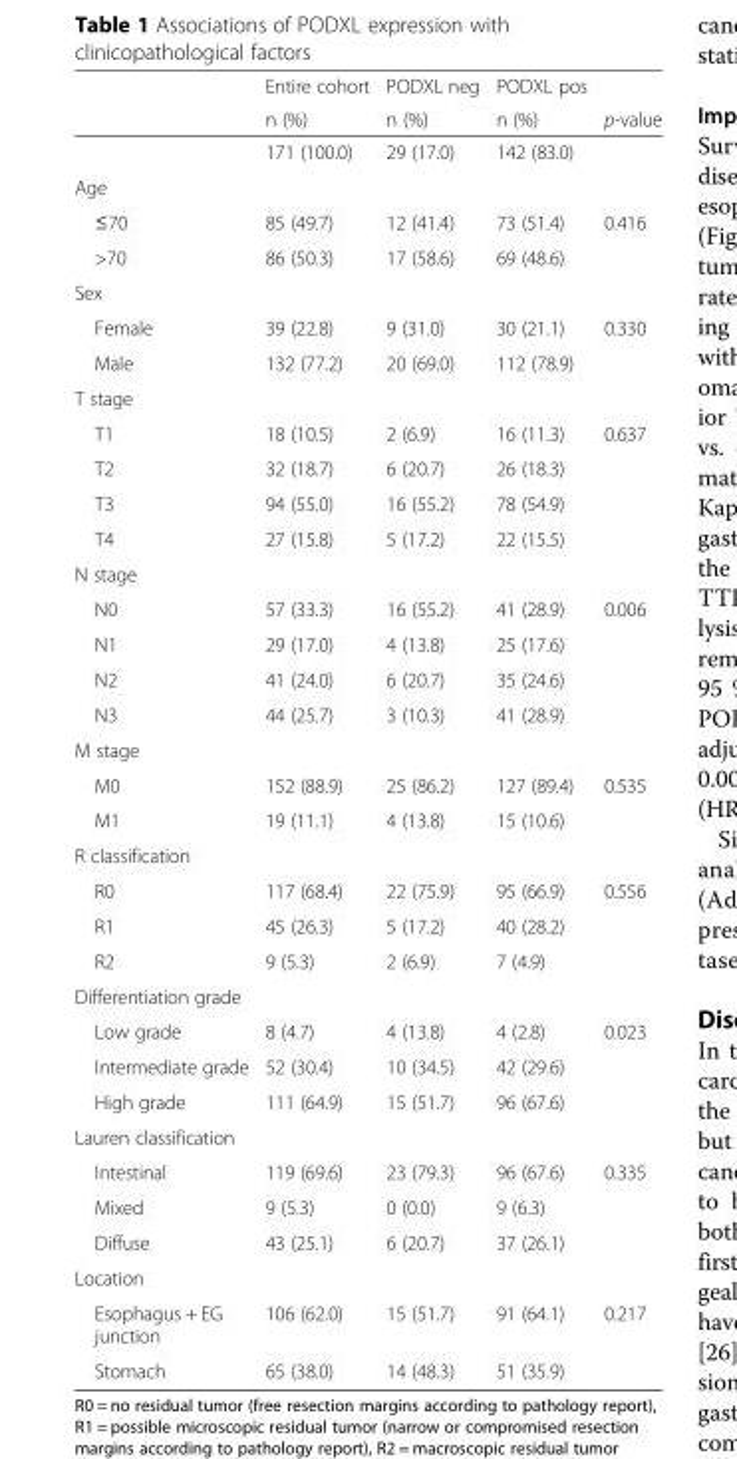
<table><thead><tr><td rowspan="2"></td><td rowspan="2">Entire cohort n (%)</td><td rowspan="2">PODXL neg n (%)</td><td rowspan="2">PODXL pos n (%)</td><td rowspan="2">p-value</td></tr><tr></tr></thead><tbody><tr><td></td><td>171 (100.0)</td><td>29 (17.0)</td><td>142 (83.0)</td><td></td></tr><tr><td colspan="5">Age</td></tr><tr><td>≤70</td><td>85 (49.7)</td><td>12 (41.4)</td><td>73 (51.4)</td><td rowspan="2">0.416</td></tr><tr><td>&gt;70</td><td>86 (50.3)</td><td>17 (58.6)</td><td>69 (48.6)</td></tr><tr><td colspan="5">Sex</td></tr><tr><td>Female</td><td>39 (22.8)</td><td>9 (31.0)</td><td>30 (21.1)</td><td rowspan="2">0.330</td></tr><tr><td>Male</td><td>132 (77.2)</td><td>20 (69.0)</td><td>112 (78.9)</td></tr><tr><td colspan="5">T stage</td></tr><tr><td>T1</td><td>18 (10.5)</td><td>2 (6.9)</td><td>16 (11.3)</td><td rowspan="4">0.637</td></tr><tr><td>T2</td><td>32 (18.7)</td><td>6 (20.7)</td><td>26 (18.3)</td></tr><tr><td>T3</td><td>94 (55.0)</td><td>16 (55.2)</td><td>78 (54.9)</td></tr><tr><td>T4</td><td>27 (15.8)</td><td>5 (17.2)</td><td>22 (15.5)</td></tr><tr><td colspan="5">N stage</td></tr><tr><td>N0</td><td>57 (33.3)</td><td>16 (55.2)</td><td>41 (28.9)</td><td rowspan="4">0.006</td></tr><tr><td>N1</td><td>29 (17.0)</td><td>4 (13.8)</td><td>25 (17.6)</td></tr><tr><td>N2</td><td>41 (24.0)</td><td>6 (20.7)</td><td>35 (24.6)</td></tr><tr><td>N3</td><td>44 (25.7)</td><td>3 (10.3)</td><td>41 (28.9)</td></tr><tr><td colspan="5">M stage</td></tr><tr><td>M0</td><td>152 (88.9)</td><td>25 (86.2)</td><td>127 (89.4)</td><td rowspan="2">0.535</td></tr><tr><td>M1</td><td>19 (11.1)</td><td>4 (13.8)</td><td>15 (10.6)</td></tr><tr><td colspan="5">R classification</td></tr><tr><td>R0</td><td>117 (68.4)</td><td>22 (75.9)</td><td>95 (66.9)</td><td rowspan="3">0.556</td></tr><tr><td>R1</td><td>45 (26.3)</td><td>5 (17.2)</td><td>40 (28.2)</td></tr><tr><td>R2</td><td>9 (5.3)</td><td>2 (6.9)</td><td>7 (4.9)</td></tr><tr><td colspan="5">Differentiation grade</td></tr><tr><td>Low grade</td><td>8 (4.7)</td><td>4 (13.8)</td><td>4 (2.8)</td><td rowspan="3">0.023</td></tr><tr><td>Intermediate grade</td><td>52 (30.4)</td><td>10 (34.5)</td><td>42 (29.6)</td></tr><tr><td>High grade</td><td>111 (64.9)</td><td>15 (51.7)</td><td>96 (67.6)</td></tr><tr><td colspan="5">Lauren classification</td></tr><tr><td>Intestinal</td><td>119 (69.6)</td><td>23 (79.3)</td><td>96 (67.6)</td><td rowspan="3">0.335</td></tr><tr><td>Mixed</td><td>9 (5.3)</td><td>0 (0.0)</td><td>9 (6.3)</td></tr><tr><td>Diffuse</td><td>43 (25.1)</td><td>6 (20.7)</td><td>37 (26.1)</td></tr><tr><td colspan="5">Location</td></tr><tr><td>Esophagus + EG junction</td><td>106 (62.0)</td><td>15 (51.7)</td><td>91 (64.1)</td><td rowspan="2">0.217</td></tr><tr><td>Stomach</td><td>65 (38.0)</td><td>14 (48.3)</td><td>51 (35.9)</td></tr></tbody></table>